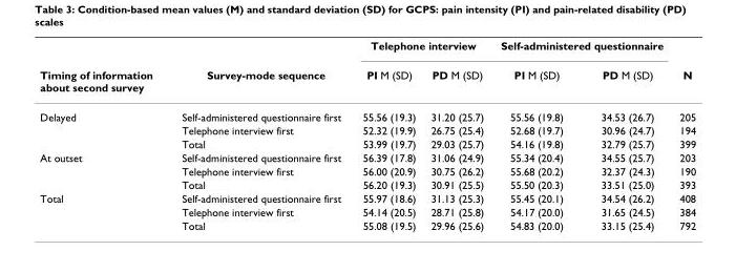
<table><thead><tr><td rowspan="2">Timing of information about second survey</td><td rowspan="2">Survey-mode sequence</td><td colspan="2">Telephone interview</td><td colspan="2">Self-administered questionnaire</td><td rowspan="2">N</td></tr><tr><td>PI M (SD)</td><td>PD M (SD)</td><td>PI M (SD)</td><td>PD M (SD)</td></tr></thead><tbody><tr><td rowspan="3">Delayed</td><td>Self-administered questionnaire first</td><td>55.56 (19.3)</td><td>31.20 (25.7)</td><td>55.56 (19.8)</td><td>34.53 (26.7)</td><td>205</td></tr><tr><td>Telephone interview first</td><td>52.32 (19.9)</td><td>26.75 (25.4)</td><td>52.68 (19.7)</td><td>30.96 (24.7)</td><td>194</td></tr><tr><td>Total</td><td>53.99 (19.7)</td><td>29.03 (25.7)</td><td>54.16 (19.8)</td><td>32.79 (25.7)</td><td>399</td></tr><tr><td rowspan="3">At outset</td><td>Self-administered questionnaire first</td><td>56.39 (17.8)</td><td>31.06 (24.9)</td><td>55.34 (20.4)</td><td>34.55 (25.7)</td><td>203</td></tr><tr><td>Telephone interview first</td><td>56.00 (20.9)</td><td>30.75 (26.2)</td><td>55.68 (20.2)</td><td>32.37 (24.3)</td><td>190</td></tr><tr><td>Total</td><td>56.20 (19.3)</td><td>30.91 (25.5)</td><td>55.50 (20.3)</td><td>33.51 (25.0)</td><td>393</td></tr><tr><td rowspan="3">Total</td><td>Self-administered questionnaire first</td><td>55.97 (18.6)</td><td>31.13 (25.3)</td><td>55.45 (20.1)</td><td>34.54 (26.2)</td><td>408</td></tr><tr><td>Telephone interview first</td><td>54.14 (20.5)</td><td>28.71 (25.8)</td><td>54.17 (20.0)</td><td>31.65 (24.5)</td><td>384</td></tr><tr><td>Total</td><td>55.08 (19.5)</td><td>29.96 (25.6)</td><td>54.83 (20.0)</td><td>33.15 (25.4)</td><td>792</td></tr></tbody></table>